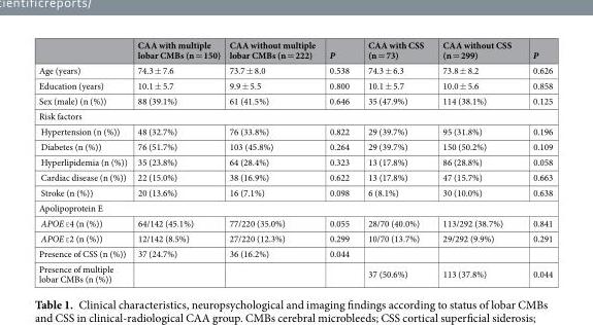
<table><thead><tr><td></td><td>CAA with multiple lobar CMBs (n = 150)</td><td>CAA without multiple lobar CMBs (n = 222)</td><td>P</td><td>CAA with CSS (n = 73)</td><td>CAA without CSS (n = 299)</td><td>P</td></tr></thead><tbody><tr><td>Age (years)</td><td>74.3 ± 7.6</td><td>73.7 ± 8.0</td><td>0.538</td><td>74.3 ± 6.3</td><td>73.8 ± 8.2</td><td>0.626</td></tr><tr><td>Education (years)</td><td>10.1 ± 5.7</td><td>9.9 ± 5.5</td><td>0.800</td><td>10.1 ± 5.7</td><td>10.0 ± 5.6</td><td>0.858</td></tr><tr><td>Sex (male) (n (%))</td><td>88 (39.1%)</td><td>61 (41.5%)</td><td>0.646</td><td>35 (47.9%)</td><td>114 (38.1%)</td><td>0.125</td></tr><tr><td colspan="7">Risk factors</td></tr><tr><td>Hypertension (n (%))</td><td>48 (32.7%)</td><td>76 (33.8%)</td><td>0.822</td><td>29 (39.7%)</td><td>95 (31.8%)</td><td>0.196</td></tr><tr><td>Diabetes (n (%))</td><td>76 (51.7%)</td><td>103 (45.8%)</td><td>0.264</td><td>29 (39.7%)</td><td>150 (50.2%)</td><td>0.109</td></tr><tr><td>Hyperlipidemia (n (%))</td><td>35 (23.8%)</td><td>64 (28.4%)</td><td>0.323</td><td>13 (17.8%)</td><td>86 (28.8%)</td><td>0.058</td></tr><tr><td>Cardiac disease (n (%))</td><td>22 (15.0%)</td><td>38 (16.9%)</td><td>0.622</td><td>13 (17.8%)</td><td>47 (15.7%)</td><td>0.663</td></tr><tr><td>Stroke (n (%))</td><td>20 (13.6%)</td><td>16 (7.1%)</td><td>0.098</td><td>6 (8.1%)</td><td>30 (10.0%)</td><td>0.638</td></tr><tr><td colspan="7">Apolipoprotein E</td></tr><tr><td>APOE ε4 (n (%))</td><td>64/142 (45.1%)</td><td>77/220 (35.0%)</td><td>0.055</td><td>28/70 (40.0%)</td><td>113/292 (38.7%)</td><td>0.841</td></tr><tr><td>APOE ε2 (n (%))</td><td>12/142 (8.5%)</td><td>27/220 (12.3%)</td><td>0.299</td><td>10/70 (13.7%)</td><td>29/292 (9.9%)</td><td>0.291</td></tr><tr><td>Presence of CSS (n (%))</td><td>37 (24.7%)</td><td>36 (16.2%)</td><td>0.044</td><td></td><td></td><td></td></tr><tr><td>Presence of multiple lobar CMBs (n (%))</td><td></td><td></td><td></td><td>37 (50.6%)</td><td>113 (37.8%)</td><td>0.044</td></tr></tbody></table>